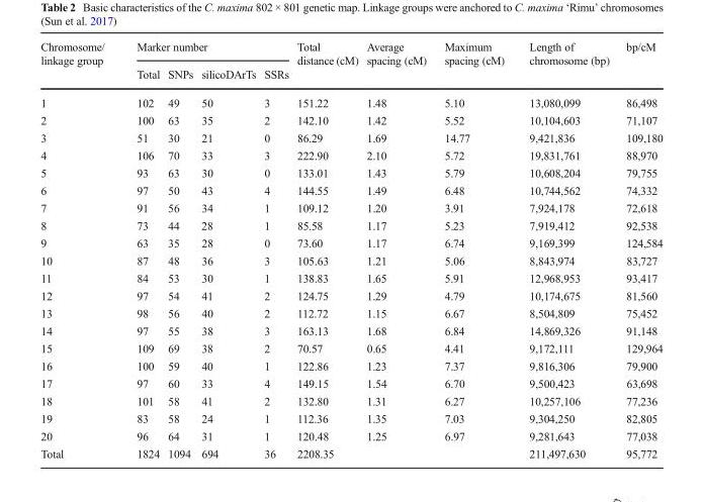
<table><thead><tr><td rowspan="2">Chromosome/ linkage group</td><td colspan="4">Marker number</td><td rowspan="2">Total distance (cM)</td><td rowspan="2">Average spacing (cM)</td><td rowspan="2">Maximum spacing (cM)</td><td rowspan="2">Length of chromosome (bp)</td><td rowspan="2">bp/cM</td></tr><tr><td>Total</td><td>SNPs</td><td>silicoDArTs</td><td>SSRs</td></tr></thead><tbody><tr><td>1</td><td>102</td><td>49</td><td>50</td><td>3</td><td>151.22</td><td>1.48</td><td>5.10</td><td>13,080,099</td><td>86,498</td></tr><tr><td>2</td><td>100</td><td>63</td><td>35</td><td>2</td><td>142.10</td><td>1.42</td><td>5.52</td><td>10,104,603</td><td>71,107</td></tr><tr><td>3</td><td>51</td><td>30</td><td>21</td><td>0</td><td>86.29</td><td>1.69</td><td>14.77</td><td>9,421,836</td><td>109,180</td></tr><tr><td>4</td><td>106</td><td>70</td><td>33</td><td>3</td><td>222.90</td><td>2.10</td><td>5.72</td><td>19,831,761</td><td>88,970</td></tr><tr><td>5</td><td>93</td><td>63</td><td>30</td><td>0</td><td>133.01</td><td>1.43</td><td>5.79</td><td>10,608,204</td><td>79,755</td></tr><tr><td>6</td><td>97</td><td>50</td><td>43</td><td>4</td><td>144.55</td><td>1.49</td><td>6.48</td><td>10,744,562</td><td>74,332</td></tr><tr><td>7</td><td>91</td><td>56</td><td>34</td><td>1</td><td>109.12</td><td>1.20</td><td>3.91</td><td>7,924,178</td><td>72,618</td></tr><tr><td>8</td><td>73</td><td>44</td><td>28</td><td>1</td><td>85.58</td><td>1.17</td><td>5.23</td><td>7,919,412</td><td>92,538</td></tr><tr><td>9</td><td>63</td><td>35</td><td>28</td><td>0</td><td>73.60</td><td>1.17</td><td>6.74</td><td>9,169,399</td><td>124,584</td></tr><tr><td>10</td><td>87</td><td>48</td><td>36</td><td>3</td><td>105.63</td><td>1.21</td><td>5.06</td><td>8,843,974</td><td>83,727</td></tr><tr><td>11</td><td>84</td><td>53</td><td>30</td><td>1</td><td>138.83</td><td>1.65</td><td>5.91</td><td>12,968,953</td><td>93,417</td></tr><tr><td>12</td><td>97</td><td>54</td><td>41</td><td>2</td><td>124.75</td><td>1.29</td><td>4.79</td><td>10,174,675</td><td>81,560</td></tr><tr><td>13</td><td>98</td><td>56</td><td>40</td><td>2</td><td>112.72</td><td>1.15</td><td>6.67</td><td>8,504,809</td><td>75,452</td></tr><tr><td>14</td><td>97</td><td>55</td><td>38</td><td>3</td><td>163.13</td><td>1.68</td><td>6.84</td><td>14,869,326</td><td>91,148</td></tr><tr><td>15</td><td>109</td><td>69</td><td>38</td><td>2</td><td>70.57</td><td>0.65</td><td>4.41</td><td>9,172,111</td><td>129,964</td></tr><tr><td>16</td><td>100</td><td>59</td><td>40</td><td>1</td><td>122.86</td><td>1.23</td><td>7.37</td><td>9,816,306</td><td>79,900</td></tr><tr><td>17</td><td>97</td><td>60</td><td>33</td><td>4</td><td>149.15</td><td>1.54</td><td>6.70</td><td>9,500,423</td><td>63,698</td></tr><tr><td>18</td><td>101</td><td>58</td><td>41</td><td>2</td><td>132.80</td><td>1.31</td><td>6.27</td><td>10,257,106</td><td>77,236</td></tr><tr><td>19</td><td>83</td><td>58</td><td>24</td><td>1</td><td>112.36</td><td>1.35</td><td>7.03</td><td>9,304,250</td><td>82,805</td></tr><tr><td>20</td><td>96</td><td>64</td><td>31</td><td>1</td><td>120.48</td><td>1.25</td><td>6.97</td><td>9,281,643</td><td>77,038</td></tr><tr><td>Total</td><td>1824</td><td>1094</td><td>694</td><td>36</td><td>2208.35</td><td></td><td></td><td>211,497,630</td><td>95,772</td></tr></tbody></table>